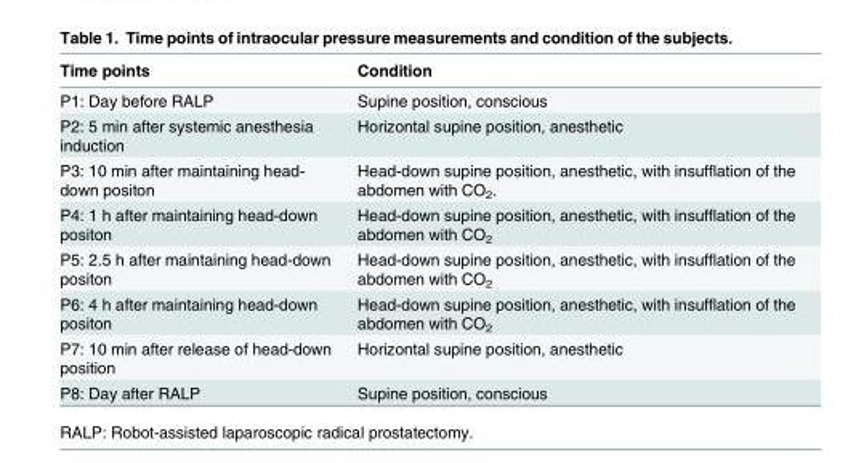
<table><thead><tr><td>Time points</td><td>Condition</td></tr></thead><tbody><tr><td>P1: Day before RALP</td><td>Supine position, conscious</td></tr><tr><td>P2: 5 min after systemic anesthesia induction</td><td>Horizontal supine position, anesthetic</td></tr><tr><td>P3: 10 min after maintaining head- down positon</td><td>Head-down supine position, anesthetic, with insufflation of the abdomen with CO<sub>2</sub>.</td></tr><tr><td>P4: 1 h after maintaining head-down positon</td><td>Head-down supine position, anesthetic, with insufflation of the abdomen with CO<sub>2</sub></td></tr><tr><td>P5: 2.5 h after maintaining head-down positon</td><td>Head-down supine position, anesthetic, with insufflation of the abdomen with CO<sub>2</sub></td></tr><tr><td>P6: 4 h after maintaining head-down positon</td><td>Head-down supine position, anesthetic, with insufflation of the abdomen with CO<sub>2</sub></td></tr><tr><td>P7: 10 min after release of head-down position</td><td>Horizontal supine position, anesthetic</td></tr><tr><td>P8: Day after RALP</td><td>Supine position, conscious</td></tr></tbody></table>